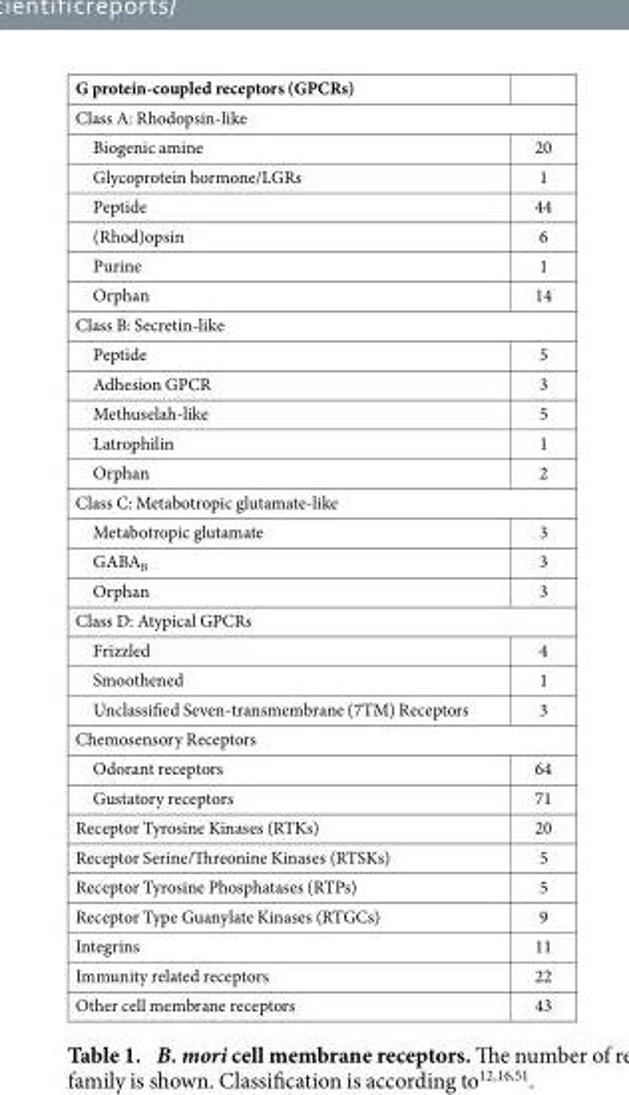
<table><tbody><tr><td colspan="2">G protein-coupled receptors (GPCRs)</td></tr><tr><td colspan="2">Class A: Rhodopsin-like</td></tr><tr><td>Biogenic amine</td><td>20</td></tr><tr><td>Glycoprotein hormone/LGRs</td><td>1</td></tr><tr><td>Peptide</td><td>44</td></tr><tr><td>(Rhod)opsin</td><td>6</td></tr><tr><td>Purine</td><td>1</td></tr><tr><td>Orphan</td><td>14</td></tr><tr><td colspan="2">Class B: Secretin-like</td></tr><tr><td>Peptide</td><td>5</td></tr><tr><td>Adhesion GPCR</td><td>3</td></tr><tr><td>Methuselah-like</td><td>5</td></tr><tr><td>Latrophilin</td><td>1</td></tr><tr><td>Orphan</td><td>2</td></tr><tr><td colspan="2">Class C: Metabotropic glutamate-like</td></tr><tr><td>Metabotropic glutamate</td><td>3</td></tr><tr><td>GABA<sub>B</sub></td><td>3</td></tr><tr><td>Orphan</td><td>3</td></tr><tr><td colspan="2">Class D: Atypical GPCRs</td></tr><tr><td>Frizzled</td><td>4</td></tr><tr><td>Smoothened</td><td>1</td></tr><tr><td>Unclassified Seven-transmembrane (7TM) Receptors</td><td>3</td></tr><tr><td colspan="2">Chemosensory Receptors</td></tr><tr><td>Odorant receptors</td><td>64</td></tr><tr><td>Gustatory receptors</td><td>71</td></tr><tr><td>Receptor Tyrosine Kinases (RTKs)</td><td>20</td></tr><tr><td>Receptor Serine/Threonine Kinases (RTSKs)</td><td>5</td></tr><tr><td>Receptor Tyrosine Phosphatases (RTPs)</td><td>5</td></tr><tr><td>Receptor Type Guanylate Kinases (RTGCs)</td><td>9</td></tr><tr><td>Integrins</td><td>11</td></tr><tr><td>Immunity related receptors</td><td>22</td></tr><tr><td>Other cell membrane receptors</td><td>43</td></tr></tbody></table>